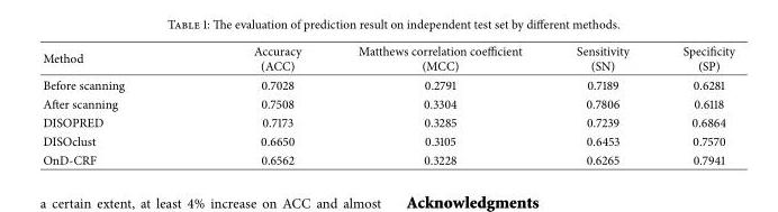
<table><thead><tr><td>Method</td><td>Accuracy (ACC)</td><td>Matthews correlation coefficient (MCC)</td><td>Sensitivity (SN)</td><td>Specificity (SP)</td></tr></thead><tbody><tr><td>Before scanning</td><td>0.7028</td><td>0.2791</td><td>0.7189</td><td>0.6281</td></tr><tr><td>After scanning</td><td>0.7508</td><td>0.3304</td><td>0.7806</td><td>0.6118</td></tr><tr><td>DISOPRED</td><td>0.7173</td><td>0.3285</td><td>0.7239</td><td>0.6864</td></tr><tr><td>DISOclust</td><td>0.6650</td><td>0.3105</td><td>0.6453</td><td>0.7570</td></tr><tr><td>OnD-CRF</td><td>0.6562</td><td>0.3228</td><td>0.6265</td><td>0.7941</td></tr></tbody></table>